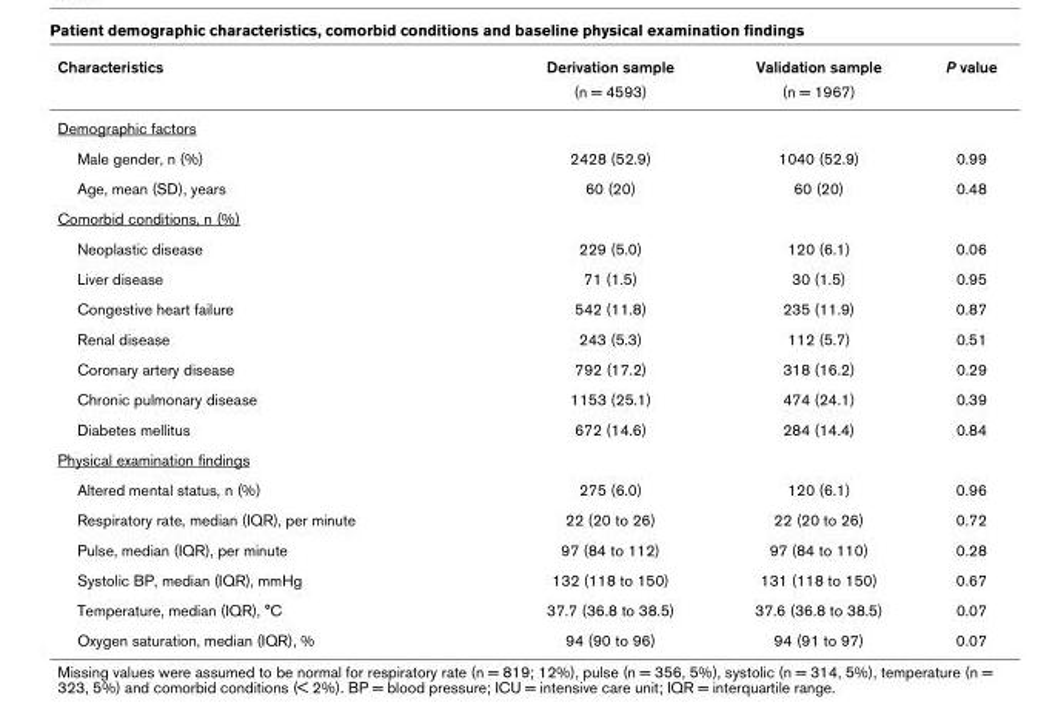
<table><thead><tr><td rowspan="2">Characteristics</td><td rowspan="2">Derivation sample (n = 4593)</td><td rowspan="2">Validation sample (n = 1967)</td><td rowspan="2">P value</td></tr><tr></tr></thead><tbody><tr><td colspan="4">Demographic factors</td></tr><tr><td>Male gender, n (%)</td><td>2428 (52.9)</td><td>1040 (52.9)</td><td>0.99</td></tr><tr><td>Age, mean (SD), years</td><td>60 (20)</td><td>60 (20)</td><td>0.48</td></tr><tr><td colspan="4">Comorbid conditions, n (%)</td></tr><tr><td>Neoplastic disease</td><td>229 (5.0)</td><td>120 (6.1)</td><td>0.06</td></tr><tr><td>Liver disease</td><td>71 (1.5)</td><td>30 (1.5)</td><td>0.95</td></tr><tr><td>Congestive heart failure</td><td>542 (11.8)</td><td>235 (11.9)</td><td>0.87</td></tr><tr><td>Renal disease</td><td>243 (5.3)</td><td>112 (5.7)</td><td>0.51</td></tr><tr><td>Coronary artery disease</td><td>792 (17.2)</td><td>318 (16.2)</td><td>0.29</td></tr><tr><td>Chronic pulmonary disease</td><td>1153 (25.1)</td><td>474 (24.1)</td><td>0.39</td></tr><tr><td>Diabetes mellitus</td><td>672 (14.6)</td><td>284 (14.4)</td><td>0.84</td></tr><tr><td colspan="4">Physical examination findings</td></tr><tr><td>Altered mental status, n (%)</td><td>275 (6.0)</td><td>120 (6.1)</td><td>0.96</td></tr><tr><td>Respiratory rate, median (IQR), per minute</td><td>22 (20 to 26)</td><td>22 (20 to 26)</td><td>0.72</td></tr><tr><td>Pulse, median (IQR), per minute</td><td>97 (84 to 112)</td><td>97 (84 to 110)</td><td>0.28</td></tr><tr><td>Systolic BP, median (IQR), mmHg</td><td>132 (118 to 150)</td><td>131 (118 to 150)</td><td>0.67</td></tr><tr><td>Temperature, median (IQR), °C</td><td>37.7 (36.8 to 38.5)</td><td>37.6 (36.8 to 38.5)</td><td>0.07</td></tr><tr><td>Oxygen saturation, median (IQR), %</td><td>94 (90 to 96)</td><td>94 (91 to 97)</td><td>0.07</td></tr></tbody></table>